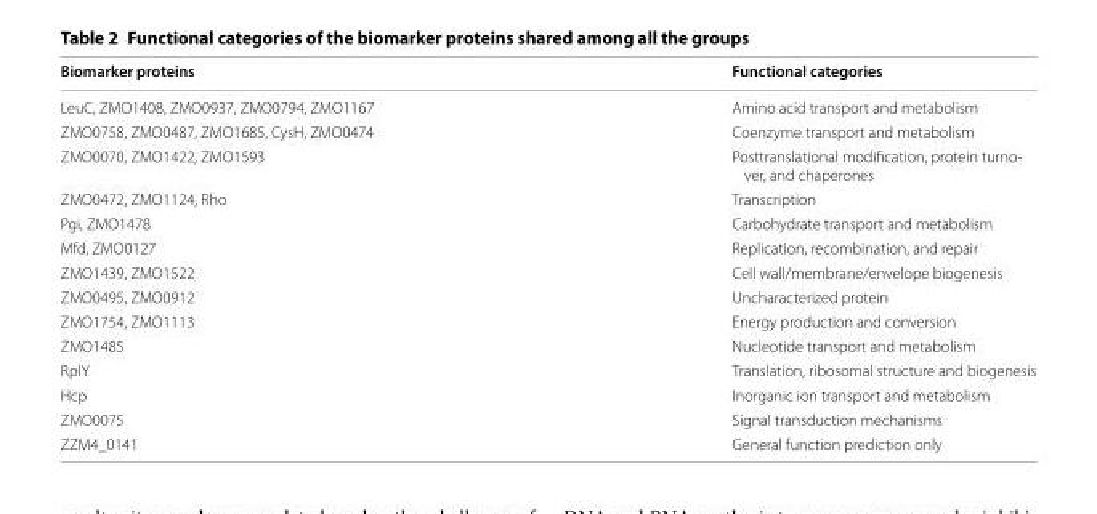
<table><thead><tr><td>Biomarker proteins</td><td>Functional categories</td></tr></thead><tbody><tr><td>LeuC, ZMO1408, ZMO0937, ZMO0794, ZMO1167</td><td>Amino acid transport and metabolism</td></tr><tr><td>ZMO0758, ZMO0487, ZMO1685, CysH, ZMO0474</td><td>Coenzyme transport and metabolism</td></tr><tr><td>ZMO0070, ZMO1422, ZMO1593</td><td>Posttranslational modification, protein turno- ver, and chaperones</td></tr><tr><td>ZMO0472, ZMO1124, Rho</td><td>Transcription</td></tr><tr><td>Pgi, ZMO1478</td><td>Carbohydrate transport and metabolism</td></tr><tr><td>Mfd, ZMO0127</td><td>Replication, recombination, and repair</td></tr><tr><td>ZMO1439, ZMO1522</td><td>Cell wall/membrane/envelope biogenesis</td></tr><tr><td>ZMO0495, ZMO0912</td><td>Uncharacterized protein</td></tr><tr><td>ZMO1754, ZMO1113</td><td>Energy production and conversion</td></tr><tr><td>ZMO1485</td><td>Nucleotide transport and metabolism</td></tr><tr><td>RplY</td><td>Translation, ribosomal structure and biogenesis</td></tr><tr><td>Hcp</td><td>Inorganic ion transport and metabolism</td></tr><tr><td>ZMO0075</td><td>Signal transduction mechanisms</td></tr><tr><td>ZZM4_0141</td><td>General function prediction only</td></tr></tbody></table>